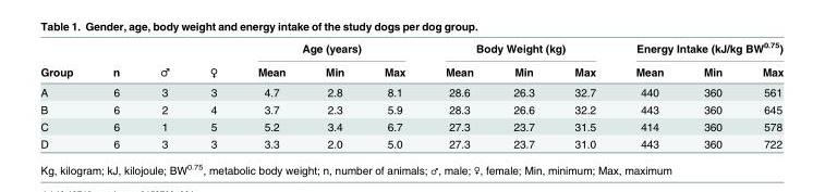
<table><thead><tr><td rowspan="2">Group</td><td rowspan="2">n</td><td rowspan="2">♂</td><td rowspan="2">♀</td><td colspan="3">Age (years)</td><td colspan="3">Body Weight (kg)</td><td colspan="3">Energy Intake (kJ/kg BW<sup>0.75</sup>)</td></tr><tr><td>Mean</td><td>Min</td><td>Max</td><td>Mean</td><td>Min</td><td>Max</td><td>Mean</td><td>Min</td><td>Max</td></tr></thead><tbody><tr><td>A</td><td>6</td><td>3</td><td>3</td><td>4.7</td><td>2.8</td><td>8.1</td><td>28.6</td><td>26.3</td><td>32.7</td><td>440</td><td>360</td><td>561</td></tr><tr><td>B</td><td>6</td><td>2</td><td>4</td><td>3.7</td><td>2.3</td><td>5.9</td><td>28.3</td><td>26.6</td><td>32.2</td><td>443</td><td>360</td><td>645</td></tr><tr><td>C</td><td>6</td><td>1</td><td>5</td><td>5.2</td><td>3.4</td><td>6.7</td><td>27.3</td><td>23.7</td><td>31.5</td><td>414</td><td>360</td><td>578</td></tr><tr><td>D</td><td>6</td><td>3</td><td>3</td><td>3.3</td><td>2.0</td><td>5.0</td><td>27.3</td><td>23.7</td><td>31.0</td><td>443</td><td>360</td><td>722</td></tr></tbody></table>